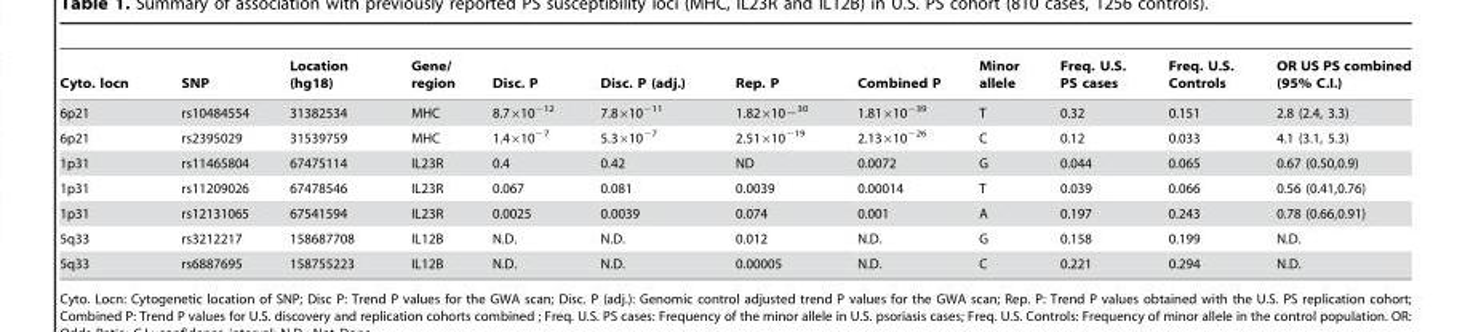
<table><thead><tr><td>Cyto. locn</td><td>SNP</td><td>Location (hg18)</td><td>Gene/ region</td><td>Disc. P</td><td>Disc. P (adj.)</td><td>Rep. P</td><td>Combined P</td><td>Minor allele</td><td>Freq. U.S. PS cases</td><td>Freq. U.S. Controls</td><td>OR US PS combined (95% C.I.)</td></tr></thead><tbody><tr><td>6p21</td><td>rs10484554</td><td>31382534</td><td>MHC</td><td>8.7×10<sup>−12</sup></td><td>7.8×10<sup>−11</sup></td><td>1.82×10−<sup>30</sup></td><td>1.81×10<sup>−39</sup></td><td>T</td><td>0.32</td><td>0.151</td><td>2.8 (2.4, 3.3)</td></tr><tr><td>6p21</td><td>rs2395029</td><td>31539759</td><td>MHC</td><td>1.4×10<sup>−7</sup></td><td>5.3×10<sup>−7</sup></td><td>2.51×10<sup>−19</sup></td><td>2.13×10<sup>−26</sup></td><td>C</td><td>0.12</td><td>0.033</td><td>4.1 (3.1, 5.3)</td></tr><tr><td>1p31</td><td>rs11465804</td><td>67475114</td><td>IL23R</td><td>0.4</td><td>0.42</td><td>ND</td><td>0.0072</td><td>G</td><td>0.044</td><td>0.065</td><td>0.67 (0.50,0.9)</td></tr><tr><td>1p31</td><td>rs11209026</td><td>67478546</td><td>IL23R</td><td>0.067</td><td>0.081</td><td>0.0039</td><td>0.00014</td><td>T</td><td>0.039</td><td>0.066</td><td>0.56 (0.41,0.76)</td></tr><tr><td>1p31</td><td>rs12131065</td><td>67541594</td><td>IL23R</td><td>0.0025</td><td>0.0039</td><td>0.074</td><td>0.001</td><td>A</td><td>0.197</td><td>0.243</td><td>0.78 (0.66,0.91)</td></tr><tr><td>5q33</td><td>rs3212217</td><td>158687708</td><td>IL12B</td><td>N.D.</td><td>N.D.</td><td>0.012</td><td>N.D.</td><td>G</td><td>0.158</td><td>0.199</td><td>N.D.</td></tr><tr><td>5q33</td><td>rs6887695</td><td>158755223</td><td>IL12B</td><td>N.D.</td><td>N.D.</td><td>0.00005</td><td>N.D.</td><td>C</td><td>0.221</td><td>0.294</td><td>N.D.</td></tr></tbody></table>